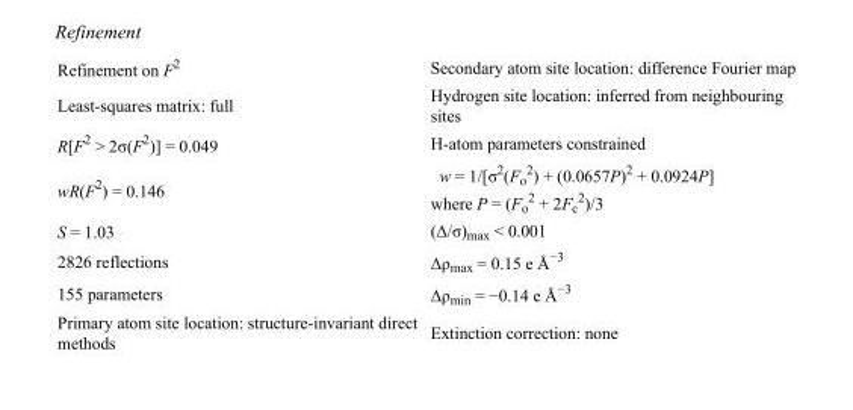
<table><tbody><tr><td>Refinement on F<sup>2</sup></td><td>Secondary atom site location: difference Fourier map</td></tr><tr><td>Least-squares matrix: full</td><td>Hydrogen site location: inferred from neighbouring sites</td></tr><tr><td>R[F<sup>2</sup> &gt; 2σ(F<sup>2</sup>)] = 0.049</td><td>H-atom parameters constrained</td></tr><tr><td>wR(F<sup>2</sup>) = 0.146</td><td>w = 1/[σ<sup>2</sup>(F<sub>o</sub> <sup>2</sup>) + (0.0657P)<sup>2</sup> + 0.0924P] where P = (F<sub>o</sub> <sup>2</sup> + 2F<sub>c</sub> <sup>2</sup>)/3</td></tr><tr><td>S = 1.03</td><td>(Δ/σ)<sub>max</sub> &lt; 0.001</td></tr><tr><td>2826 reflections</td><td>Δρ<sub>max</sub> = 0.15 e Å<sup>−3</sup></td></tr><tr><td>155 parameters</td><td>Δρ<sub>min</sub> = −0.14 e Å<sup>−3</sup></td></tr><tr><td>Primary atom site location: structure-invariant direct methods</td><td>Extinction correction: none</td></tr></tbody></table>